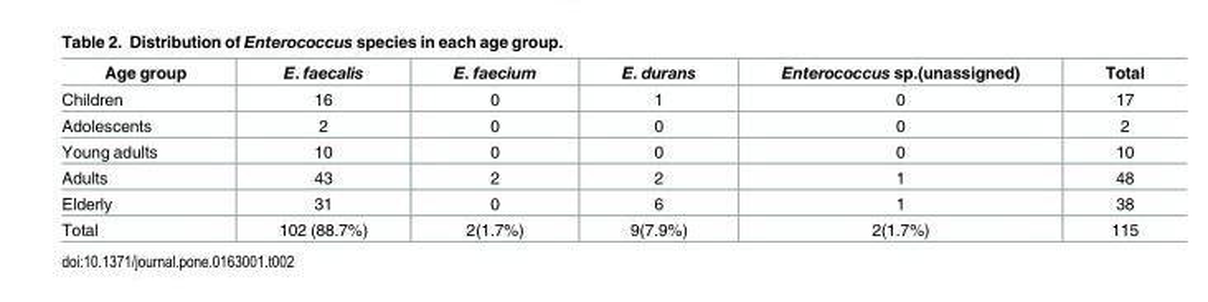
<table><thead><tr><td>Age group</td><td>E. faecalis</td><td>E. faecium</td><td>E. durans</td><td>Enterococcus sp.(unassigned)</td><td>Total</td></tr></thead><tbody><tr><td>Children</td><td>16</td><td>0</td><td>1</td><td>0</td><td>17</td></tr><tr><td>Adolescents</td><td>2</td><td>0</td><td>0</td><td>0</td><td>2</td></tr><tr><td>Young adults</td><td>10</td><td>0</td><td>0</td><td>0</td><td>10</td></tr><tr><td>Adults</td><td>43</td><td>2</td><td>2</td><td>1</td><td>48</td></tr><tr><td>Elderly</td><td>31</td><td>0</td><td>6</td><td>1</td><td>38</td></tr><tr><td>Total</td><td>102 (88.7%)</td><td>2(1.7%)</td><td>9(7.9%)</td><td>2(1.7%)</td><td>115</td></tr></tbody></table>